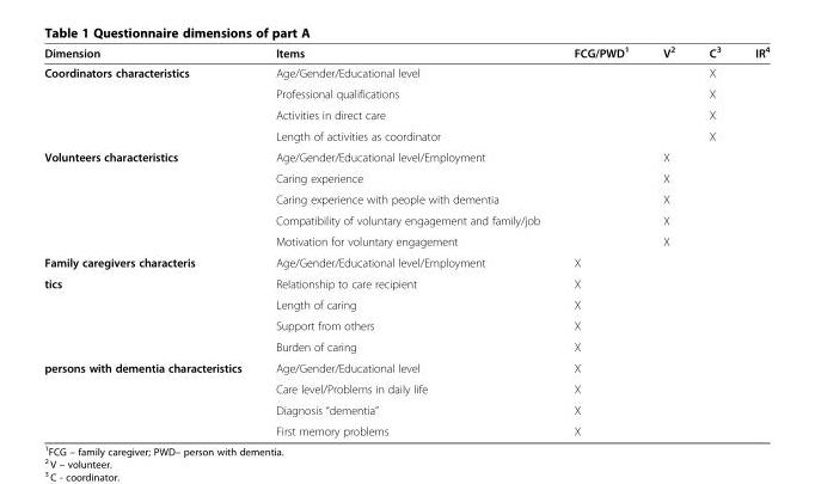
<table><thead><tr><td>Dimension</td><td>Items</td><td>FCG/PWD<sup>1</sup></td><td>V<sup>2</sup></td><td>C<sup>3</sup></td><td>IR<sup>4</sup></td></tr></thead><tbody><tr><td rowspan="4">Coordinators characteristics</td><td>Age/Gender/Educational level</td><td></td><td></td><td>X</td><td></td></tr><tr><td>Professional qualifications</td><td></td><td></td><td>X</td><td></td></tr><tr><td>Activities in direct care</td><td></td><td></td><td>X</td><td></td></tr><tr><td>Length of activities as coordinator</td><td></td><td></td><td>X</td><td></td></tr><tr><td rowspan="5">Volunteers characteristics</td><td>Age/Gender/Educational level/Employment</td><td></td><td>X</td><td></td><td></td></tr><tr><td>Caring experience</td><td></td><td>X</td><td></td><td></td></tr><tr><td>Caring experience with people with dementia</td><td></td><td>X</td><td></td><td></td></tr><tr><td>Compatibility of voluntary engagement and family/job</td><td></td><td>X</td><td></td><td></td></tr><tr><td>Motivation for voluntary engagement</td><td></td><td>X</td><td></td><td></td></tr><tr><td rowspan="5">Family caregivers characteris tics</td><td>Age/Gender/Educational level/Employment</td><td>X</td><td></td><td></td><td></td></tr><tr><td>Relationship to care recipient</td><td>X</td><td></td><td></td><td></td></tr><tr><td>Length of caring</td><td>X</td><td></td><td></td><td></td></tr><tr><td>Support from others</td><td>X</td><td></td><td></td><td></td></tr><tr><td>Burden of caring</td><td>X</td><td></td><td></td><td></td></tr><tr><td rowspan="4">persons with dementia characteristics</td><td>Age/Gender/Educational level</td><td>X</td><td></td><td></td><td></td></tr><tr><td>Care level/Problems in daily life</td><td>X</td><td></td><td></td><td></td></tr><tr><td>Diagnosis “dementia”</td><td>X</td><td></td><td></td><td></td></tr><tr><td>First memory problems</td><td>X</td><td></td><td></td><td></td></tr></tbody></table>